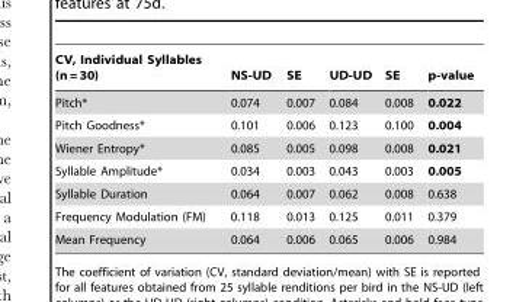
<table><thead><tr><td>CV, Individual Syllables (n = 30)</td><td>NS-UD</td><td>SE</td><td>UD-UD</td><td>SE</td><td>p-value</td></tr></thead><tbody><tr><td>Pitch*</td><td>0.074</td><td>0.007</td><td>0.084</td><td>0.008</td><td>0.022</td></tr><tr><td>Pitch Goodness*</td><td>0.101</td><td>0.006</td><td>0.123</td><td>0.100</td><td>0.004</td></tr><tr><td>Wiener Entropy*</td><td>0.085</td><td>0.005</td><td>0.098</td><td>0.008</td><td>0.021</td></tr><tr><td>Syllable Amplitude*</td><td>0.034</td><td>0.003</td><td>0.043</td><td>0.003</td><td>0.005</td></tr><tr><td>Syllable Duration</td><td>0.064</td><td>0.007</td><td>0.062</td><td>0.008</td><td>0.638</td></tr><tr><td>Frequency Modulation (FM)</td><td>0.118</td><td>0.013</td><td>0.125</td><td>0.011</td><td>0.379</td></tr><tr><td>Mean Frequency</td><td>0.064</td><td>0.006</td><td>0.065</td><td>0.006</td><td>0.984</td></tr></tbody></table>